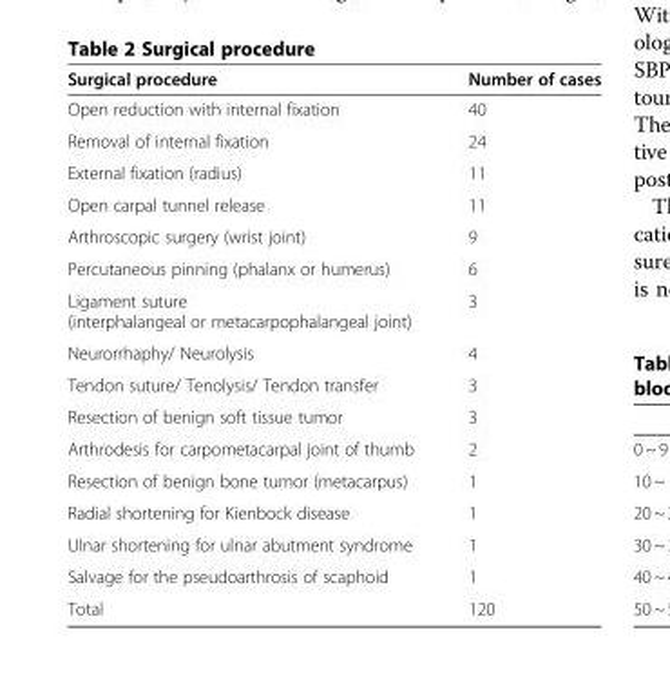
<table><thead><tr><td>Surgical procedure</td><td>Number of cases</td></tr></thead><tbody><tr><td>Open reduction with internal fixation</td><td>40</td></tr><tr><td>Removal of internal fixation</td><td>24</td></tr><tr><td>External fixation (radius)</td><td>11</td></tr><tr><td>Open carpal tunnel release</td><td>11</td></tr><tr><td>Arthroscopic surgery (wrist joint)</td><td>9</td></tr><tr><td>Percutaneous pinning (phalanx or humerus)</td><td>6</td></tr><tr><td>Ligament suture (interphalangeal or metacarpophalangeal joint)</td><td>3</td></tr><tr><td>Neurorrhaphy/ Neurolysis</td><td>4</td></tr><tr><td>Tendon suture/ Tenolysis/ Tendon transfer</td><td>3</td></tr><tr><td>Resection of benign soft tissue tumor</td><td>3</td></tr><tr><td>Arthrodesis for carpometacarpal joint of thumb</td><td>2</td></tr><tr><td>Resection of benign bone tumor (metacarpus)</td><td>1</td></tr><tr><td>Radial shortening for Kienbock disease</td><td>1</td></tr><tr><td>Ulnar shortening for ulnar abutment syndrome</td><td>1</td></tr><tr><td>Salvage for the pseudoarthrosis of scaphoid</td><td>1</td></tr><tr><td>Total</td><td>120</td></tr></tbody></table>